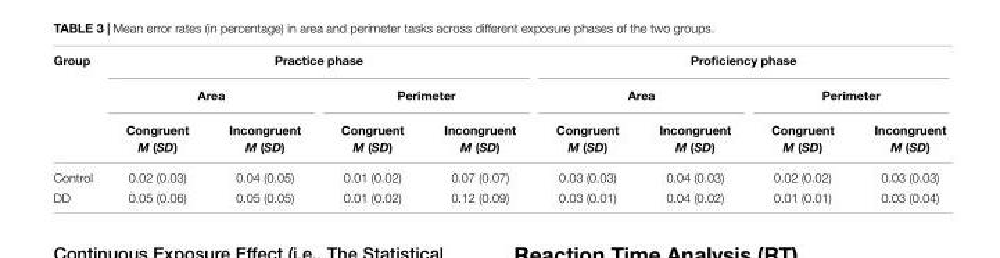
<table><thead><tr><td rowspan="3">Group</td><td colspan="4">Practice phase</td><td colspan="4">Proficiency phase</td></tr><tr><td colspan="2">Area</td><td colspan="2">Perimeter</td><td colspan="2">Area</td><td colspan="2">Perimeter</td></tr><tr><td>Congruent M (SD)</td><td>Incongruent M (SD)</td><td>Congruent M (SD)</td><td>Incongruent M (SD)</td><td>Congruent M (SD)</td><td>Incongruent M (SD)</td><td>Congruent M (SD)</td><td>Incongruent M (SD)</td></tr></thead><tbody><tr><td>Control</td><td>0.02 (0.03)</td><td>0.04 (0.05)</td><td>0.01 (0.02)</td><td>0.07 (0.07)</td><td>0.03 (0.03)</td><td>0.04 (0.03)</td><td>0.02 (0.02)</td><td>0.03 (0.03)</td></tr><tr><td>DD</td><td>0.05 (0.06)</td><td>0.05 (0.05)</td><td>0.01 (0.02)</td><td>0.12 (0.09)</td><td>0.03 (0.01)</td><td>0.04 (0.02)</td><td>0.01 (0.01)</td><td>0.03 (0.04)</td></tr></tbody></table>